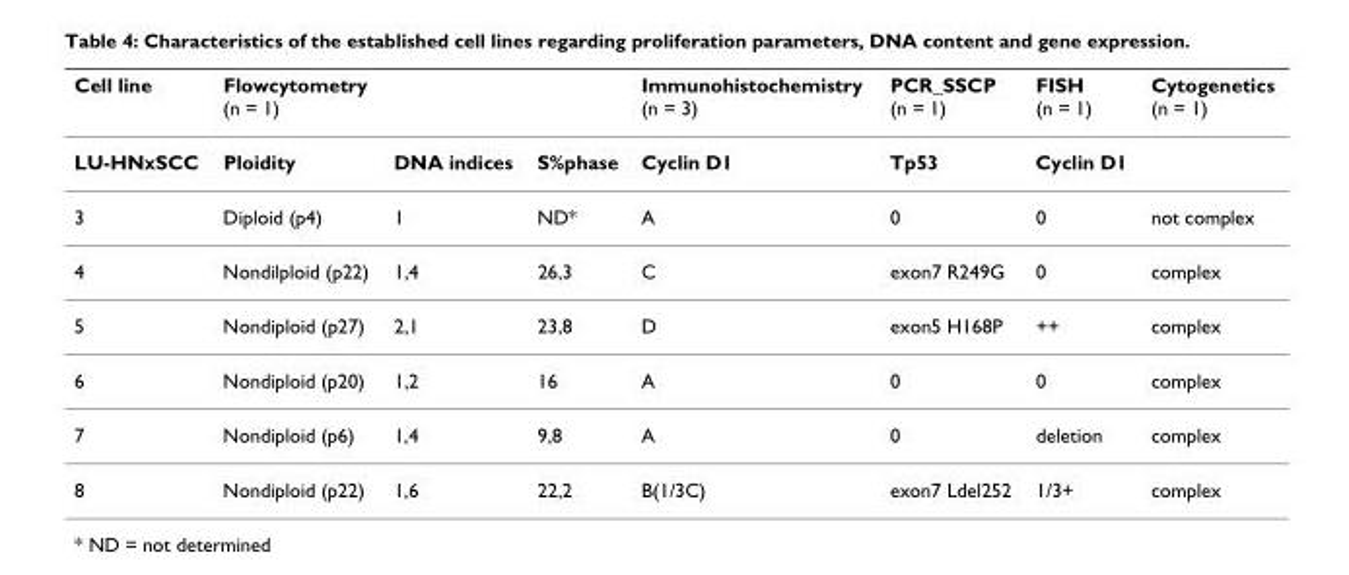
<table><thead><tr><td>Cell line</td><td>Flowcytometry (n = 1)</td><td></td><td></td><td>Immunohistochemistry (n = 3)</td><td>PCR_SSCP (n = 1)</td><td>FISH (n = 1)</td><td>Cytogenetics (n = 1)</td></tr></thead><tbody><tr><td>LU-HNxSCC</td><td>Ploidity</td><td>DNA indices</td><td>S%phase</td><td>Cyclin D1</td><td>Tp53</td><td>Cyclin D1</td><td></td></tr><tr><td>3</td><td>Diploid (p4)</td><td>1</td><td>ND*</td><td>A</td><td>0</td><td>0</td><td>not complex</td></tr><tr><td>4</td><td>Nondilploid (p22)</td><td>1,4</td><td>26,3</td><td>C</td><td>exon7 R249G</td><td>0</td><td>complex</td></tr><tr><td>5</td><td>Nondiploid (p27)</td><td>2,1</td><td>23,8</td><td>D</td><td>exon5 H168P</td><td>++</td><td>complex</td></tr><tr><td>6</td><td>Nondiploid (p20)</td><td>1,2</td><td>16</td><td>A</td><td>0</td><td>0</td><td>complex</td></tr><tr><td>7</td><td>Nondiploid (p6)</td><td>1,4</td><td>9,8</td><td>A</td><td>0</td><td>deletion</td><td>complex</td></tr><tr><td>8</td><td>Nondiploid (p22)</td><td>1,6</td><td>22,2</td><td>B(1/3C)</td><td>exon7 Ldel252</td><td>1/3+</td><td>complex</td></tr></tbody></table>